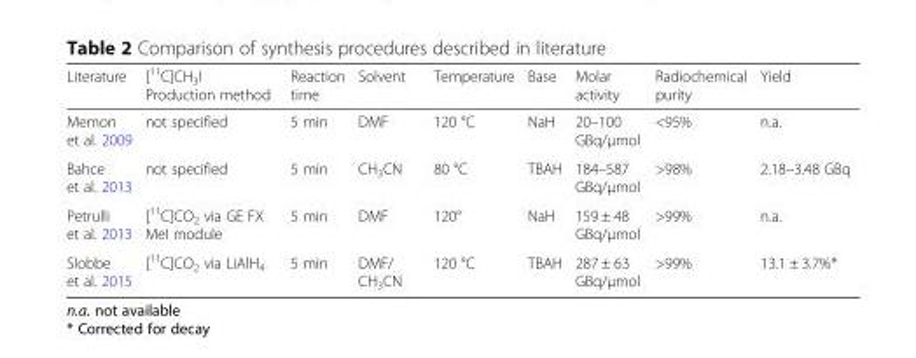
<table><thead><tr><td>Literature</td><td>[<sup>11</sup>C]CH<sub>3</sub>I Production method</td><td>Reaction time</td><td>Solvent</td><td>Temperature</td><td>Base</td><td>Molar activity</td><td>Radiochemical purity</td><td>Yield</td></tr></thead><tbody><tr><td>Memon et al. 2009</td><td>not specified</td><td>5 min</td><td>DMF</td><td>120 °C</td><td>NaH</td><td>20–100 GBq/μmol</td><td>&lt;95%</td><td>n.a.</td></tr><tr><td>Bahce et al. 2013</td><td>not specified</td><td>5 min</td><td>CH<sub>3</sub>CN</td><td>80 °C</td><td>TBAH</td><td>184–587 GBq/μmol</td><td>&gt;98%</td><td>2.18–3.48 GBq</td></tr><tr><td>Petrulli et al. 2013</td><td>[<sup>11</sup>C]CO<sub>2</sub> via GE FX MeI module</td><td>5 min</td><td>DMF</td><td>120°</td><td>NaH</td><td>159 ± 48 GBq/μmol</td><td>&gt;99%</td><td>n.a.</td></tr><tr><td>Slobbe et al. 2015</td><td>[<sup>11</sup>C]CO<sub>2</sub> via LiAlH<sub>4</sub></td><td>5 min</td><td>DMF/ CH<sub>3</sub>CN</td><td>120 °C</td><td>TBAH</td><td>287 ± 63 GBq/μmol</td><td>&gt;99%</td><td>13.1 ± 3.7%*</td></tr></tbody></table>